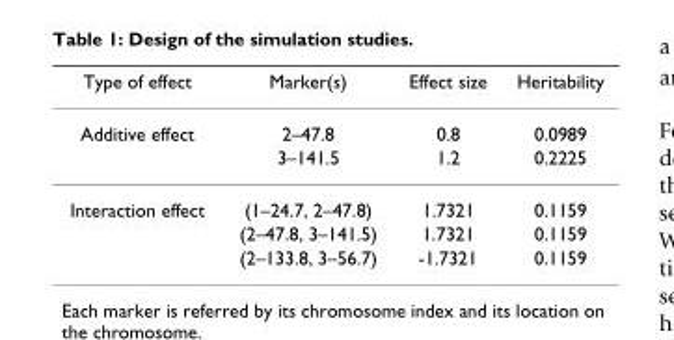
<table><thead><tr><td>Type of effect</td><td>Marker(s)</td><td>Effect size</td><td>Heritability</td></tr></thead><tbody><tr><td rowspan="2">Additive effect</td><td>2–47.8</td><td>0.8</td><td>0.0989</td></tr><tr><td>3–141.5</td><td>1.2</td><td>0.2225</td></tr><tr><td rowspan="3">Interaction effect</td><td>(1–24.7, 2–47.8)</td><td>1.7321</td><td>0.1159</td></tr><tr><td>(2–47.8, 3–141.5)</td><td>1.7321</td><td>0.1159</td></tr><tr><td>(2–133.8, 3–56.7)</td><td>-1.7321</td><td>0.1159</td></tr></tbody></table>